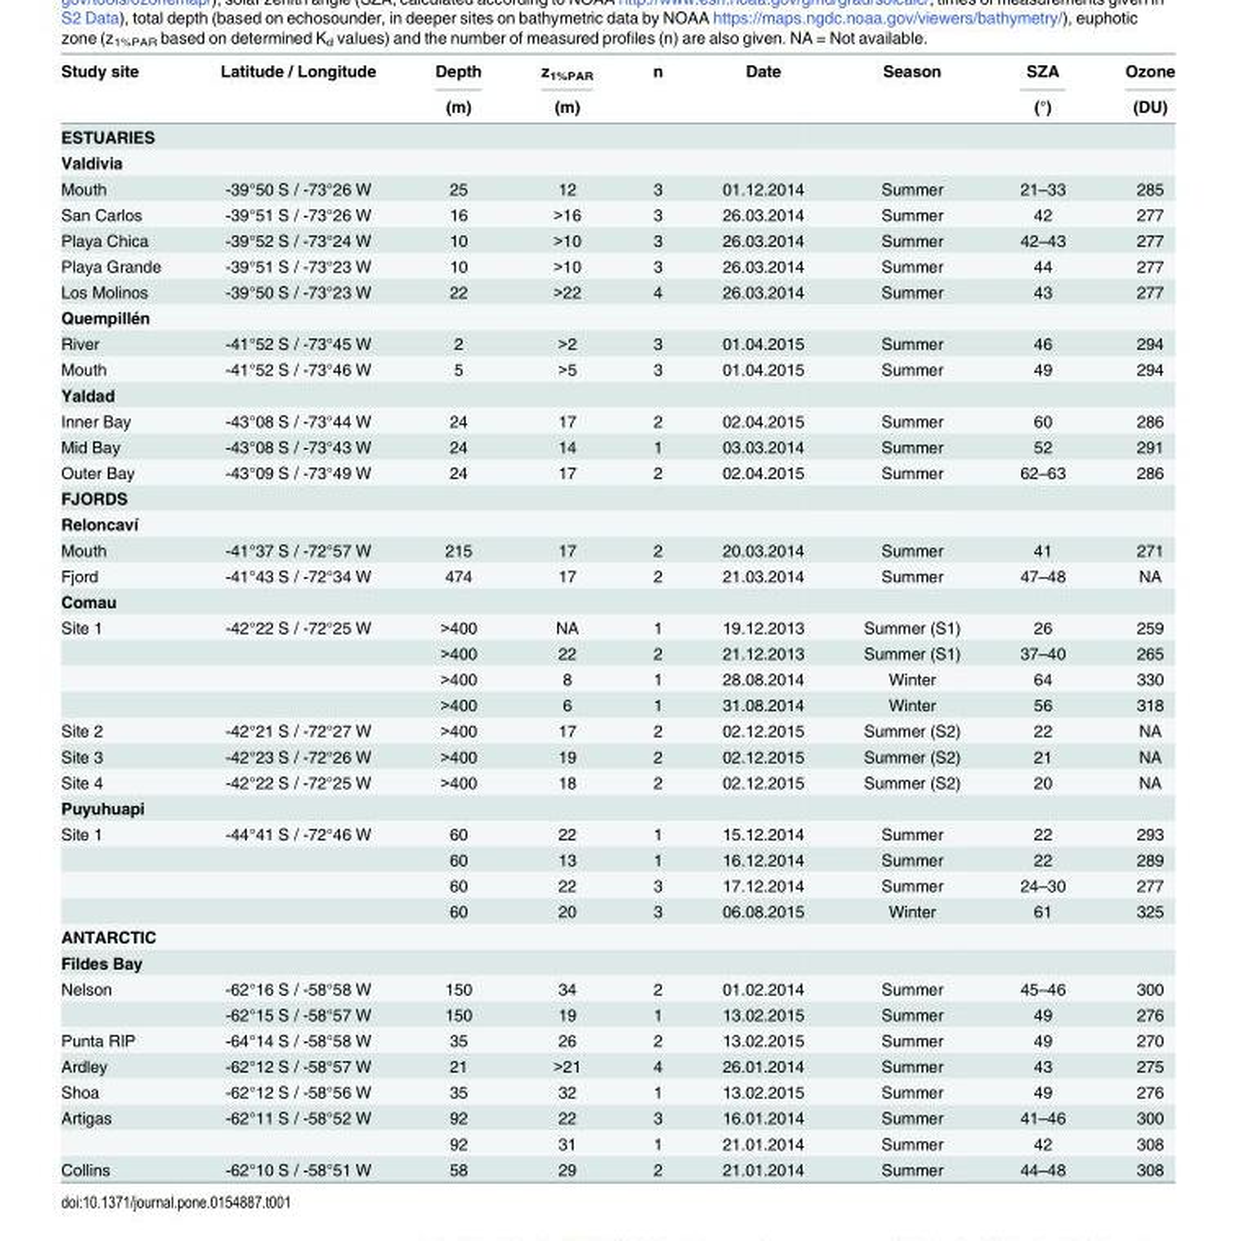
<table><thead><tr><td rowspan="2">Study site</td><td rowspan="2">Latitude / Longitude</td><td rowspan="2">Depth (m)</td><td rowspan="2">z<sub>1%PAR</sub> (m)</td><td rowspan="2">n</td><td rowspan="2">Date</td><td rowspan="2">Season</td><td rowspan="2">SZA (°)</td><td rowspan="2">Ozone (DU)</td></tr><tr></tr></thead><tbody><tr><td colspan="9">ESTUARIES</td></tr><tr><td colspan="9">Valdivia</td></tr><tr><td>Mouth</td><td>-39°50 S / -73°26 W</td><td>25</td><td>12</td><td>3</td><td>01.12.2014</td><td>Summer</td><td>21–33</td><td>285</td></tr><tr><td>San Carlos</td><td>-39°51 S / -73°26 W</td><td>16</td><td>&gt;16</td><td>3</td><td>26.03.2014</td><td>Summer</td><td>42</td><td>277</td></tr><tr><td>Playa Chica</td><td>-39°52 S / -73°24 W</td><td>10</td><td>&gt;10</td><td>3</td><td>26.03.2014</td><td>Summer</td><td>42–43</td><td>277</td></tr><tr><td>Playa Grande</td><td>-39°51 S / -73°23 W</td><td>10</td><td>&gt;10</td><td>3</td><td>26.03.2014</td><td>Summer</td><td>44</td><td>277</td></tr><tr><td>Los Molinos</td><td>-39°50 S / -73°23 W</td><td>22</td><td>&gt;22</td><td>4</td><td>26.03.2014</td><td>Summer</td><td>43</td><td>277</td></tr><tr><td colspan="9">Quempillén</td></tr><tr><td>River</td><td>-41°52 S / -73°45 W</td><td>2</td><td>&gt;2</td><td>3</td><td>01.04.2015</td><td>Summer</td><td>46</td><td>294</td></tr><tr><td>Mouth</td><td>-41°52 S / -73°46 W</td><td>5</td><td>&gt;5</td><td>3</td><td>01.04.2015</td><td>Summer</td><td>49</td><td>294</td></tr><tr><td colspan="9">Yaldad</td></tr><tr><td>Inner Bay</td><td>-43°08 S / -73°44 W</td><td>24</td><td>17</td><td>2</td><td>02.04.2015</td><td>Summer</td><td>60</td><td>286</td></tr><tr><td>Mid Bay</td><td>-43°08 S / -73°43 W</td><td>24</td><td>14</td><td>1</td><td>03.03.2014</td><td>Summer</td><td>52</td><td>291</td></tr><tr><td>Outer Bay</td><td>-43°09 S / -73°49 W</td><td>24</td><td>17</td><td>2</td><td>02.04.2015</td><td>Summer</td><td>62–63</td><td>286</td></tr><tr><td colspan="9">FJORDS</td></tr><tr><td colspan="9">Reloncaví</td></tr><tr><td>Mouth</td><td>-41°37 S / -72°57 W</td><td>215</td><td>17</td><td>2</td><td>20.03.2014</td><td>Summer</td><td>41</td><td>271</td></tr><tr><td>Fjord</td><td>-41°43 S / -72°34 W</td><td>474</td><td>17</td><td>2</td><td>21.03.2014</td><td>Summer</td><td>47–48</td><td>NA</td></tr><tr><td colspan="9">Comau</td></tr><tr><td rowspan="4">Site 1</td><td>-42°22 S / -72°25 W</td><td>&gt;400</td><td>NA</td><td>1</td><td>19.12.2013</td><td>Summer (S1)</td><td>26</td><td>259</td></tr><tr><td></td><td>&gt;400</td><td>22</td><td>2</td><td>21.12.2013</td><td>Summer (S1)</td><td>37–40</td><td>265</td></tr><tr><td></td><td>&gt;400</td><td>8</td><td>1</td><td>28.08.2014</td><td>Winter</td><td>64</td><td>330</td></tr><tr><td></td><td>&gt;400</td><td>6</td><td>1</td><td>31.08.2014</td><td>Winter</td><td>56</td><td>318</td></tr><tr><td>Site 2</td><td>-42°21 S / -72°27 W</td><td>&gt;400</td><td>17</td><td>2</td><td>02.12.2015</td><td>Summer (S2)</td><td>22</td><td>NA</td></tr><tr><td>Site 3</td><td>-42°23 S / -72°26 W</td><td>&gt;400</td><td>19</td><td>2</td><td>02.12.2015</td><td>Summer (S2)</td><td>21</td><td>NA</td></tr><tr><td>Site 4</td><td>-42°22 S / -72°25 W</td><td>&gt;400</td><td>18</td><td>2</td><td>02.12.2015</td><td>Summer (S2)</td><td>20</td><td>NA</td></tr><tr><td colspan="9">Puyuhuapi</td></tr><tr><td rowspan="4">Site 1</td><td>-44°41 S / -72°46 W</td><td>60</td><td>22</td><td>1</td><td>15.12.2014</td><td>Summer</td><td>22</td><td>293</td></tr><tr><td></td><td>60</td><td>13</td><td>1</td><td>16.12.2014</td><td>Summer</td><td>22</td><td>289</td></tr><tr><td></td><td>60</td><td>22</td><td>3</td><td>17.12.2014</td><td>Summer</td><td>24–30</td><td>277</td></tr><tr><td></td><td>60</td><td>20</td><td>3</td><td>06.08.2015</td><td>Winter</td><td>61</td><td>325</td></tr><tr><td colspan="9">ANTARCTIC</td></tr><tr><td colspan="9">Fildes Bay</td></tr><tr><td rowspan="2">Nelson</td><td>-62°16 S / -58°58 W</td><td>150</td><td>34</td><td>2</td><td>01.02.2014</td><td>Summer</td><td>45–46</td><td>300</td></tr><tr><td>-62°15 S / -58°57 W</td><td>150</td><td>19</td><td>1</td><td>13.02.2015</td><td>Summer</td><td>49</td><td>276</td></tr><tr><td>Punta RIP</td><td>-64°14 S / -58°58 W</td><td>35</td><td>26</td><td>2</td><td>13.02.2015</td><td>Summer</td><td>49</td><td>270</td></tr><tr><td>Ardley</td><td>-62°12 S / -58°57 W</td><td>21</td><td>&gt;21</td><td>4</td><td>26.01.2014</td><td>Summer</td><td>43</td><td>275</td></tr><tr><td>Shoa</td><td>-62°12 S / -58°56 W</td><td>35</td><td>32</td><td>1</td><td>13.02.2015</td><td>Summer</td><td>49</td><td>276</td></tr><tr><td rowspan="2">Artigas</td><td>-62°11 S / -58°52 W</td><td>92</td><td>22</td><td>3</td><td>16.01.2014</td><td>Summer</td><td>41–46</td><td>300</td></tr><tr><td></td><td>92</td><td>31</td><td>1</td><td>21.01.2014</td><td>Summer</td><td>42</td><td>308</td></tr><tr><td>Collins</td><td>-62°10 S / -58°51 W</td><td>58</td><td>29</td><td>2</td><td>21.01.2014</td><td>Summer</td><td>44–48</td><td>308</td></tr></tbody></table>